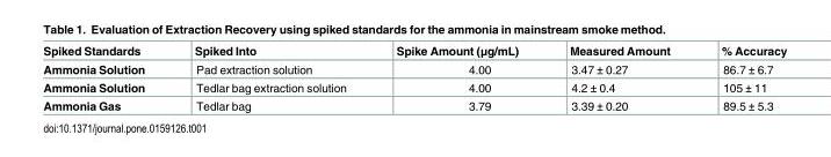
<table><thead><tr><td>Spiked Standards</td><td>Spiked Into</td><td>Spike Amount (μg/mL)</td><td>Measured Amount</td><td>% Accuracy</td></tr></thead><tbody><tr><td>Ammonia Solution</td><td>Pad extraction solution</td><td>4.00</td><td>3.47 ± 0.27</td><td>86.7 ± 6.7</td></tr><tr><td>Ammonia Solution</td><td>Tedlar bag extraction solution</td><td>4.00</td><td>4.2 ± 0.4</td><td>105 ± 11</td></tr><tr><td>Ammonia Gas</td><td>Tedlar bag</td><td>3.79</td><td>3.39 ± 0.20</td><td>89.5 ± 5.3</td></tr></tbody></table>